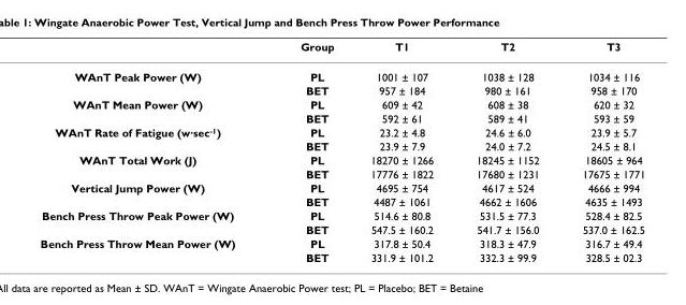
<table><thead><tr><td></td><td>Group</td><td>T1</td><td>T2</td><td>T3</td></tr></thead><tbody><tr><td rowspan="2">WAnT Peak Power (W)</td><td>PL</td><td>1001 ± 107</td><td>1038 ± 128</td><td>1034 ± 116</td></tr><tr><td>BET</td><td>957 ± 184</td><td>980 ± 161</td><td>958 ± 170</td></tr><tr><td rowspan="2">WAnT Mean Power (W)</td><td>PL</td><td>609 ± 42</td><td>608 ± 38</td><td>620 ± 32</td></tr><tr><td>BET</td><td>592 ± 61</td><td>589 ± 41</td><td>593 ± 59</td></tr><tr><td rowspan="2">WAnT Rate of Fatigue (w·sec<sup>-1</sup>)</td><td>PL</td><td>23.2 ± 4.8</td><td>24.6 ± 6.0</td><td>23.9 ± 5.7</td></tr><tr><td>BET</td><td>23.9 ± 7.9</td><td>24.0 ± 7.2</td><td>24.5 ± 8.1</td></tr><tr><td rowspan="2">WAnT Total Work (J)</td><td>PL</td><td>18270 ± 1266</td><td>18245 ± 1152</td><td>18605 ± 964</td></tr><tr><td>BET</td><td>17776 ± 1822</td><td>17680 ± 1231</td><td>17675 ± 1771</td></tr><tr><td rowspan="2">Vertical Jump Power (W)</td><td>PL</td><td>4695 ± 754</td><td>4617 ± 524</td><td>4666 ± 994</td></tr><tr><td>BET</td><td>4487 ± 1061</td><td>4662 ± 1606</td><td>4635 ± 1493</td></tr><tr><td rowspan="2">Bench Press Throw Peak Power (W)</td><td>PL</td><td>514.6 ± 80.8</td><td>531.5 ± 77.3</td><td>528.4 ± 82.5</td></tr><tr><td>BET</td><td>547.5 ± 160.2</td><td>541.7 ± 156.0</td><td>537.0 ± 162.5</td></tr><tr><td rowspan="2">Bench Press Throw Mean Power (W)</td><td>PL</td><td>317.8 ± 50.4</td><td>318.3 ± 47.9</td><td>316.7 ± 49.4</td></tr><tr><td>BET</td><td>331.9 ± 101.2</td><td>332.3 ± 99.9</td><td>328.5 ± 02.3</td></tr></tbody></table>